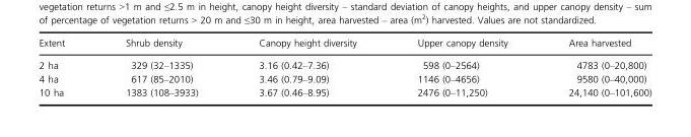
<table><thead><tr><td>Extent</td><td>Shrub density</td><td>Canopy height diversity</td><td>Upper canopy density</td><td>Area harvested</td></tr></thead><tbody><tr><td>2 ha</td><td>329 (32–1335)</td><td>3.16 (0.42–7.36)</td><td>598 (0–2564)</td><td>4783 (0–20,800)</td></tr><tr><td>4 ha</td><td>617 (85–2010)</td><td>3.46 (0.79–9.09)</td><td>1146 (0–4656)</td><td>9580 (0–40,000)</td></tr><tr><td>10 ha</td><td>1383 (108–3933)</td><td>3.67 (0.46–8.95)</td><td>2476 (0–11,250)</td><td>24,140 (0–101,600)</td></tr></tbody></table>